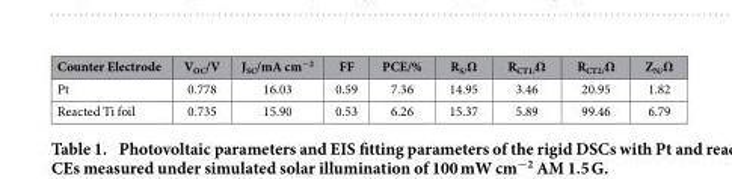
<table><thead><tr><td>Counter Electrode</td><td>V<sub>OC</sub>/V</td><td>J<sub>SC</sub>/mA cm<sup>−2</sup></td><td>FF</td><td>PCE/%</td><td>R<sub>S/</sub>Ω</td><td>R<sub>CT1/</sub>Ω</td><td>R<sub>CT2/</sub>Ω</td><td>Z<sub>N/</sub>Ω</td></tr></thead><tbody><tr><td>Pt</td><td>0.778</td><td>16.03</td><td>0.59</td><td>7.36</td><td>14.95</td><td>3.46</td><td>20.95</td><td>1.82</td></tr><tr><td>Reacted Ti foil</td><td>0.735</td><td>15.90</td><td>0.53</td><td>6.26</td><td>15.37</td><td>5.89</td><td>99.46</td><td>6.79</td></tr></tbody></table>